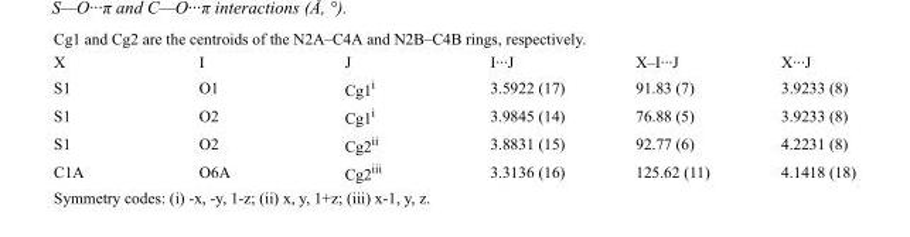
<table><tbody><tr><td>X</td><td>I</td><td>J</td><td>I···J</td><td>X–I···J</td><td>X···J</td></tr><tr><td>S1</td><td>O1</td><td>Cg1<sup>i</sup></td><td>3.5922 (17)</td><td>91.83 (7)</td><td>3.9233 (8)</td></tr><tr><td>S1</td><td>O2</td><td>Cg1<sup>i</sup></td><td>3.9845 (14)</td><td>76.88 (5)</td><td>3.9233 (8)</td></tr><tr><td>S1</td><td>O2</td><td>Cg2<sup>ii</sup></td><td>3.8831 (15)</td><td>92.77 (6)</td><td>4.2231 (8)</td></tr><tr><td>C1A</td><td>O6A</td><td>Cg2<sup>iii</sup></td><td>3.3136 (16)</td><td>125.62 (11)</td><td>4.1418 (18)</td></tr></tbody></table>